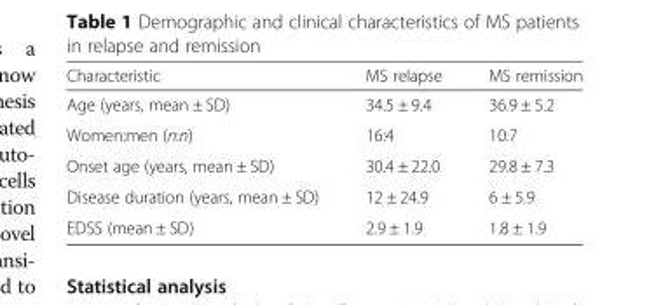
<table><thead><tr><td>Characteristic</td><td>MS relapse</td><td>MS remission</td></tr></thead><tbody><tr><td>Age (years, mean ± SD)</td><td>34.5 ± 9.4</td><td>36.9 ± 5.2</td></tr><tr><td>Women:men (n:n)</td><td>16:4</td><td>10:7</td></tr><tr><td>Onset age (years, mean ± SD)</td><td>30.4 ± 22.0</td><td>29.8 ± 7.3</td></tr><tr><td>Disease duration (years, mean ± SD)</td><td>12 ± 24.9</td><td>6 ± 5.9</td></tr><tr><td>EDSS (mean ± SD)</td><td>2.9 ± 1.9</td><td>1.8 ± 1.9</td></tr></tbody></table>